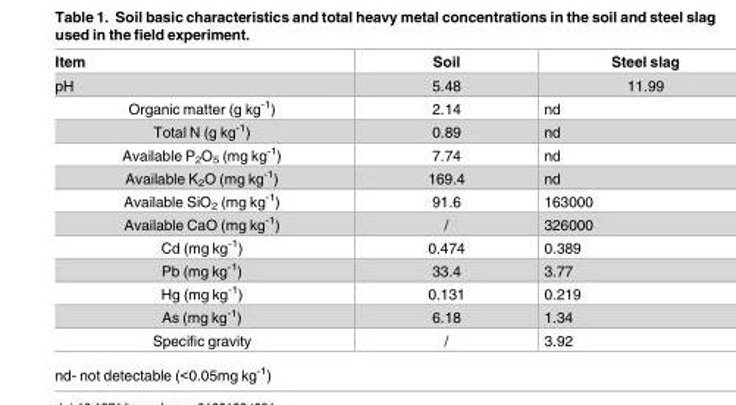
<table><thead><tr><td>Item</td><td>Soil</td><td>Steel slag</td></tr></thead><tbody><tr><td>pH</td><td>5.48</td><td>11.99</td></tr><tr><td>Organic matter (g kg<sup>-1</sup>)</td><td>2.14</td><td>nd</td></tr><tr><td>Total N (g kg<sup>-1</sup>)</td><td>0.89</td><td>nd</td></tr><tr><td>Available P<sub>2</sub>O<sub>5</sub> (mg kg<sup>-1</sup>)</td><td>7.74</td><td>nd</td></tr><tr><td>Available K<sub>2</sub>O (mg kg<sup>-1</sup>)</td><td>169.4</td><td>nd</td></tr><tr><td>Available SiO<sub>2</sub> (mg kg<sup>-1</sup>)</td><td>91.6</td><td>163000</td></tr><tr><td>Available CaO (mg kg<sup>-1</sup>)</td><td>/</td><td>326000</td></tr><tr><td>Cd (mg kg<sup>-1</sup>)</td><td>0.474</td><td>0.389</td></tr><tr><td>Pb (mg kg<sup>-1</sup>)</td><td>33.4</td><td>3.77</td></tr><tr><td>Hg (mg kg<sup>-1</sup>)</td><td>0.131</td><td>0.219</td></tr><tr><td>As (mg kg<sup>-1</sup>)</td><td>6.18</td><td>1.34</td></tr><tr><td>Specific gravity</td><td>/</td><td>3.92</td></tr></tbody></table>